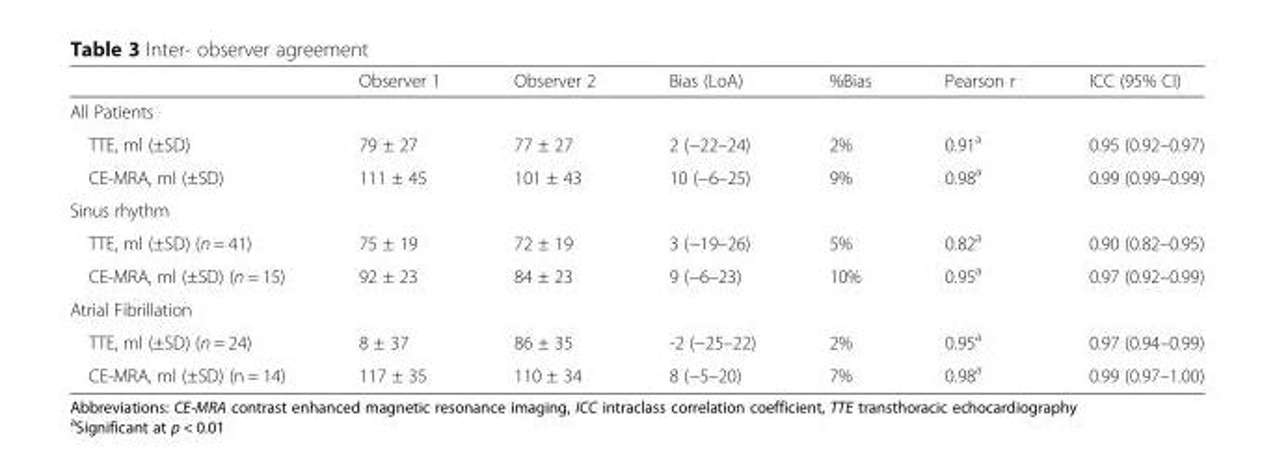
<table><thead><tr><td></td><td>Observer 1</td><td>Observer 2</td><td>Bias (LoA)</td><td>%Bias</td><td>Pearson r</td><td>ICC (95% CI)</td></tr></thead><tbody><tr><td colspan="7">All Patients</td></tr><tr><td>TTE, ml (±SD)</td><td>79 ± 27</td><td>77 ± 27</td><td>2 (−22–24)</td><td>2%</td><td>0.91<sup>a</sup></td><td>0.95 (0.92–0.97)</td></tr><tr><td>CE-MRA, ml (±SD)</td><td>111 ± 45</td><td>101 ± 43</td><td>10 (−6–25)</td><td>9%</td><td>0.98<sup>a</sup></td><td>0.99 (0.99–0.99)</td></tr><tr><td colspan="7">Sinus rhythm</td></tr><tr><td>TTE, ml (±SD) (n = 41)</td><td>75 ± 19</td><td>72 ± 19</td><td>3 (−19–26)</td><td>5%</td><td>0.82<sup>a</sup></td><td>0.90 (0.82–0.95)</td></tr><tr><td>CE-MRA, ml (±SD) (n = 15)</td><td>92 ± 23</td><td>84 ± 23</td><td>9 (−6–23)</td><td>10%</td><td>0.95<sup>a</sup></td><td>0.97 (0.92–0.99)</td></tr><tr><td colspan="7">Atrial Fibrillation</td></tr><tr><td>TTE, ml (±SD) (n = 24)</td><td>8 ± 37</td><td>86 ± 35</td><td>-2 (−25–22)</td><td>2%</td><td>0.95<sup>a</sup></td><td>0.97 (0.94–0.99)</td></tr><tr><td>CE-MRA, ml (±SD) (n = 14)</td><td>117 ± 35</td><td>110 ± 34</td><td>8 (−5–20)</td><td>7%</td><td>0.98<sup>a</sup></td><td>0.99 (0.97–1.00)</td></tr></tbody></table>